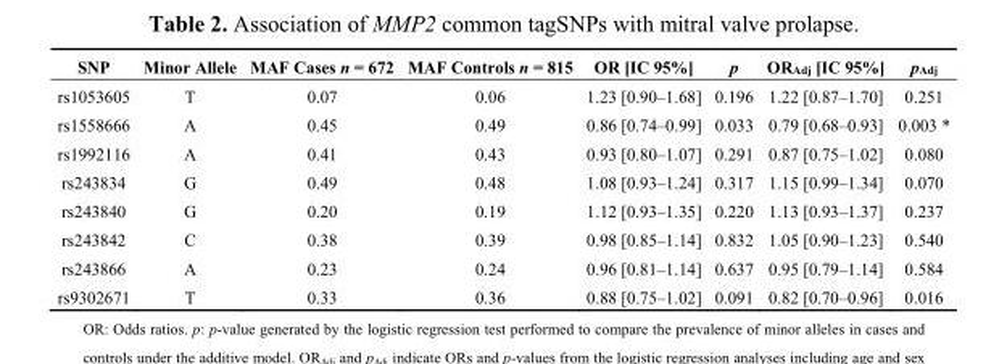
<table><thead><tr><td>SNP</td><td>Minor Allele</td><td>MAF Cases n = 672</td><td>MAF Controls n = 815</td><td>OR [IC 95%]</td><td>p</td><td>OR<sub>Adj</sub> [IC 95%]</td><td>p<sub>Adj</sub></td></tr></thead><tbody><tr><td>rs1053605</td><td>T</td><td>0.07</td><td>0.06</td><td>1.23 [0.90–1.68]</td><td>0.196</td><td>1.22 [0.87–1.70]</td><td>0.251</td></tr><tr><td>rs1558666</td><td>A</td><td>0.45</td><td>0.49</td><td>0.86 [0.74–0.99]</td><td>0.033</td><td>0.79 [0.68–0.93]</td><td>0.003 *</td></tr><tr><td>rs1992116</td><td>A</td><td>0.41</td><td>0.43</td><td>0.93 [0.80–1.07]</td><td>0.291</td><td>0.87 [0.75–1.02]</td><td>0.080</td></tr><tr><td>rs243834</td><td>G</td><td>0.49</td><td>0.48</td><td>1.08 [0.93–1.24]</td><td>0.317</td><td>1.15 [0.99–1.34]</td><td>0.070</td></tr><tr><td>rs243840</td><td>G</td><td>0.20</td><td>0.19</td><td>1.12 [0.93–1.35]</td><td>0.220</td><td>1.13 [0.93–1.37]</td><td>0.237</td></tr><tr><td>rs243842</td><td>C</td><td>0.38</td><td>0.39</td><td>0.98 [0.85–1.14]</td><td>0.832</td><td>1.05 [0.90–1.23]</td><td>0.540</td></tr><tr><td>rs243866</td><td>A</td><td>0.23</td><td>0.24</td><td>0.96 [0.81–1.14]</td><td>0.637</td><td>0.95 [0.79–1.14]</td><td>0.584</td></tr><tr><td>rs9302671</td><td>T</td><td>0.33</td><td>0.36</td><td>0.88 [0.75–1.02]</td><td>0.091</td><td>0.82 [0.70–0.96]</td><td>0.016</td></tr></tbody></table>